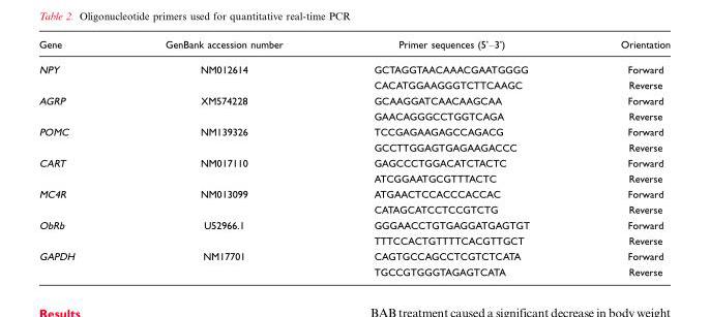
<table><thead><tr><td>Gene</td><td>GenBank accession number</td><td>Primer sequences (5’–3’)</td><td>Orientation</td></tr></thead><tbody><tr><td rowspan="2">NPY</td><td>NM012614</td><td>GCTAGGTAACAAACGAATGGGG</td><td>Forward</td></tr><tr><td></td><td>CACATGGAAGGGTCTTCAAGC</td><td>Reverse</td></tr><tr><td rowspan="2">AGRP</td><td>XM574228</td><td>GCAAGGATCAACAAGCAA</td><td>Forward</td></tr><tr><td></td><td>GAACAGGGCCTGGTCAGA</td><td>Reverse</td></tr><tr><td rowspan="2">POMC</td><td>NM139326</td><td>TCCGAGAAGAGCCAGACG</td><td>Forward</td></tr><tr><td></td><td>GCCTTGGAGTGAGAAGACCC</td><td>Reverse</td></tr><tr><td rowspan="2">CART</td><td>NM017110</td><td>GAGCCCTGGACATCTACTC</td><td>Forward</td></tr><tr><td></td><td>ATCGGAATGCGTTTACTC</td><td>Reverse</td></tr><tr><td rowspan="2">MC4R</td><td>NM013099</td><td>ATGAACTCCACCCACCAC</td><td>Forward</td></tr><tr><td></td><td>CATAGCATCCTCCGTCTG</td><td>Reverse</td></tr><tr><td rowspan="2">ObRb</td><td>U52966.1</td><td>GGGAACCTGTGAGGATGAGTGT</td><td>Forward</td></tr><tr><td></td><td>TTTCCACTGTTTTCACGTTGCT</td><td>Reverse</td></tr><tr><td rowspan="2">GAPDH</td><td>NM17701</td><td>CAGTGCCAGCCTCGTCTCATA</td><td>Forward</td></tr><tr><td></td><td>TGCCGTGGGTAGAGTCATA</td><td>Reverse</td></tr></tbody></table>